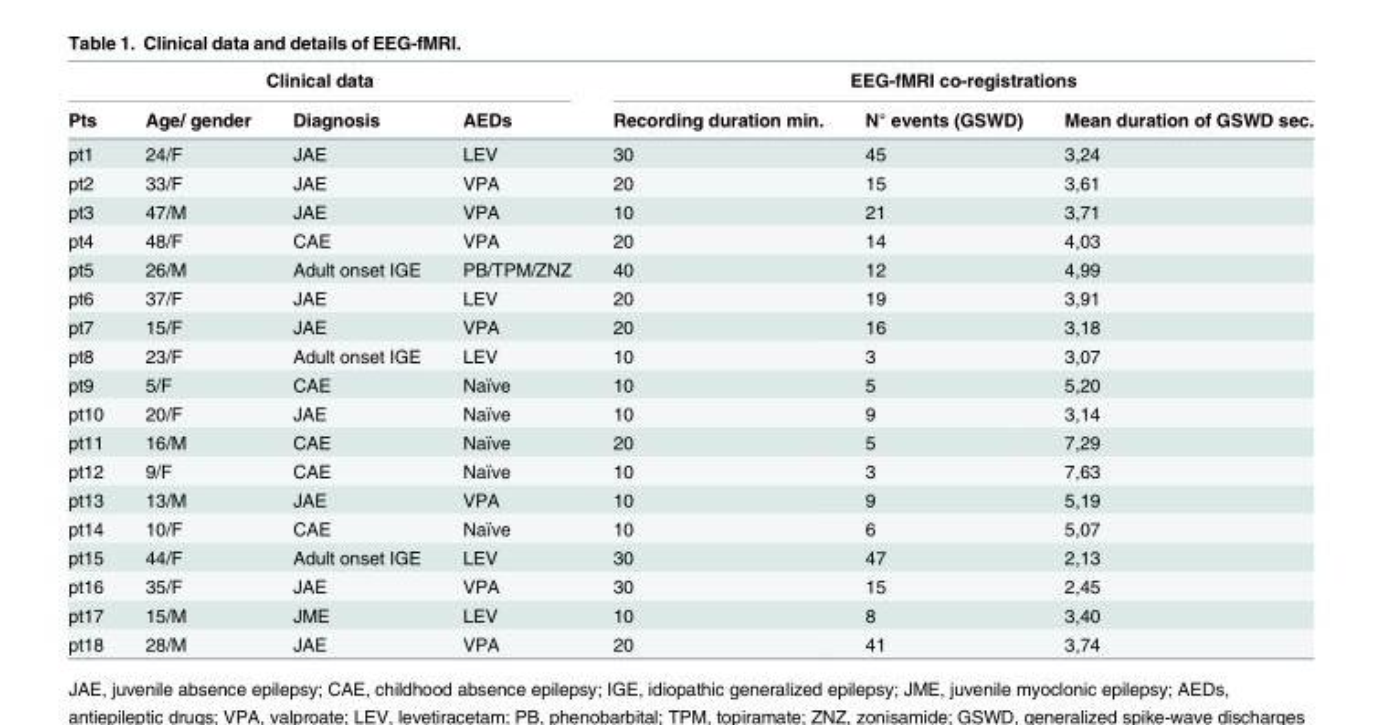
<table><thead><tr><td colspan="4">Clinical data</td><td colspan="3">EEG-fMRI co-registrations</td></tr><tr><td>Pts</td><td>Age/ gender</td><td>Diagnosis</td><td>AEDs</td><td>Recording duration min.</td><td>N° events (GSWD)</td><td>Mean duration of GSWD sec.</td></tr></thead><tbody><tr><td>pt1</td><td>24/F</td><td>JAE</td><td>LEV</td><td>30</td><td>45</td><td>3,24</td></tr><tr><td>pt2</td><td>33/F</td><td>JAE</td><td>VPA</td><td>20</td><td>15</td><td>3,61</td></tr><tr><td>pt3</td><td>47/M</td><td>JAE</td><td>VPA</td><td>10</td><td>21</td><td>3,71</td></tr><tr><td>pt4</td><td>48/F</td><td>CAE</td><td>VPA</td><td>20</td><td>14</td><td>4,03</td></tr><tr><td>pt5</td><td>26/M</td><td>Adult onset IGE</td><td>PB/TPM/ZNZ</td><td>40</td><td>12</td><td>4,99</td></tr><tr><td>pt6</td><td>37/F</td><td>JAE</td><td>LEV</td><td>20</td><td>19</td><td>3,91</td></tr><tr><td>pt7</td><td>15/F</td><td>JAE</td><td>VPA</td><td>20</td><td>16</td><td>3,18</td></tr><tr><td>pt8</td><td>23/F</td><td>Adult onset IGE</td><td>LEV</td><td>10</td><td>3</td><td>3,07</td></tr><tr><td>pt9</td><td>5/F</td><td>CAE</td><td>Naïve</td><td>10</td><td>5</td><td>5,20</td></tr><tr><td>pt10</td><td>20/F</td><td>JAE</td><td>Naïve</td><td>10</td><td>9</td><td>3,14</td></tr><tr><td>pt11</td><td>16/M</td><td>CAE</td><td>Naïve</td><td>20</td><td>5</td><td>7,29</td></tr><tr><td>pt12</td><td>9/F</td><td>CAE</td><td>Naïve</td><td>10</td><td>3</td><td>7,63</td></tr><tr><td>pt13</td><td>13/M</td><td>JAE</td><td>VPA</td><td>10</td><td>9</td><td>5,19</td></tr><tr><td>pt14</td><td>10/F</td><td>CAE</td><td>Naïve</td><td>10</td><td>6</td><td>5,07</td></tr><tr><td>pt15</td><td>44/F</td><td>Adult onset IGE</td><td>LEV</td><td>30</td><td>47</td><td>2,13</td></tr><tr><td>pt16</td><td>35/F</td><td>JAE</td><td>VPA</td><td>30</td><td>15</td><td>2,45</td></tr><tr><td>pt17</td><td>15/M</td><td>JME</td><td>LEV</td><td>10</td><td>8</td><td>3,40</td></tr><tr><td>pt18</td><td>28/M</td><td>JAE</td><td>VPA</td><td>20</td><td>41</td><td>3,74</td></tr></tbody></table>